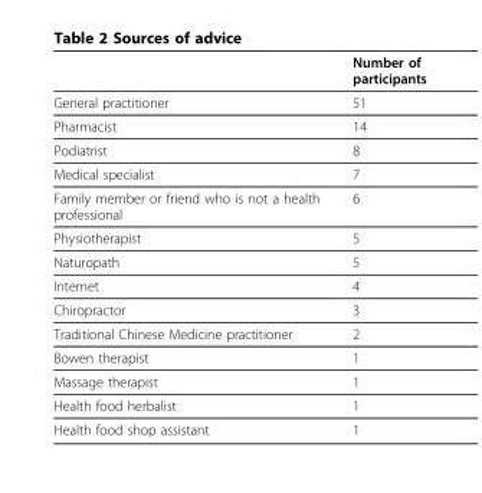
<table><thead><tr><td></td><td>Number of participants</td></tr></thead><tbody><tr><td>General practitioner</td><td>51</td></tr><tr><td>Pharmacist</td><td>14</td></tr><tr><td>Podiatrist</td><td>8</td></tr><tr><td>Medical specialist</td><td>7</td></tr><tr><td>Family member or friend who is not a health professional</td><td>6</td></tr><tr><td>Physiotherapist</td><td>5</td></tr><tr><td>Naturopath</td><td>5</td></tr><tr><td>Internet</td><td>4</td></tr><tr><td>Chiropractor</td><td>3</td></tr><tr><td>Traditional Chinese Medicine practitioner</td><td>2</td></tr><tr><td>Bowen therapist</td><td>1</td></tr><tr><td>Massage therapist</td><td>1</td></tr><tr><td>Health food herbalist</td><td>1</td></tr><tr><td>Health food shop assistant</td><td>1</td></tr></tbody></table>